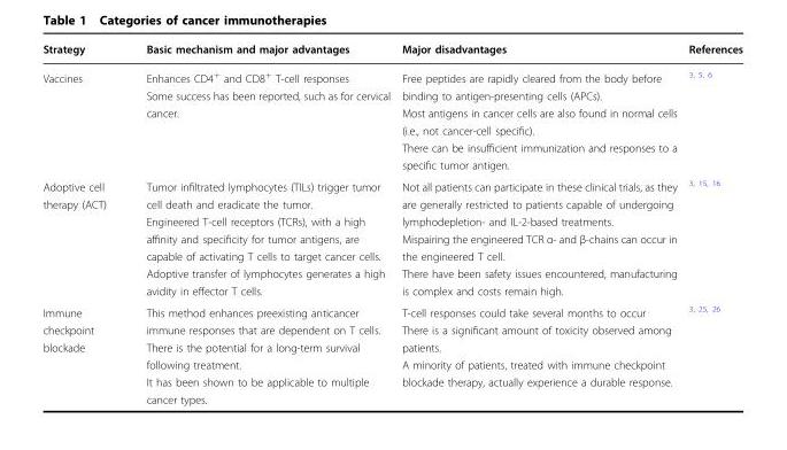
<table><thead><tr><td>Strategy</td><td>Basic mechanism and major advantages</td><td>Major disadvantages</td><td>References</td></tr></thead><tbody><tr><td>Vaccines</td><td>Enhances CD4<sup>+</sup> and CD8<sup>+</sup> T-cell responses Some success has been reported, such as for cervical cancer.</td><td>Free peptides are rapidly cleared from the body before binding to antigen-presenting cells (APCs). Most antigens in cancer cells are also found in normal cells (i.e., not cancer-cell specific). There can be insufficient immunization and responses to a specific tumor antigen.</td><td><sup>3, 5, 6</sup></td></tr><tr><td>Adoptive cell therapy (ACT)</td><td>Tumor infiltrated lymphocytes (TILs) trigger tumor cell death and eradicate the tumor. Engineered T-cell receptors (TCRs), with a high affinity and specificity for tumor antigens, are capable of activating T cells to target cancer cells. Adoptive transfer of lymphocytes generates a high avidity in effector T cells.</td><td>Not all patients can participate in these clinical trials, as they are generally restricted to patients capable of undergoing lymphodepletion- and IL-2-based treatments. Mispairing the engineered TCR α- and β-chains can occur in the engineered T cell. There have been safety issues encountered, manufacturing is complex and costs remain high.</td><td><sup>3, 15, 16</sup></td></tr><tr><td>Immune checkpoint blockade</td><td>This method enhances preexisting anticancer immune responses that are dependent on T cells. There is the potential for a long-term survival following treatment. It has been shown to be applicable to multiple cancer types.</td><td>T-cell responses could take several months to occur There is a significant amount of toxicity observed among patients. A minority of patients, treated with immune checkpoint blockade therapy, actually experience a durable response.</td><td><sup>3, 25, 26</sup></td></tr></tbody></table>